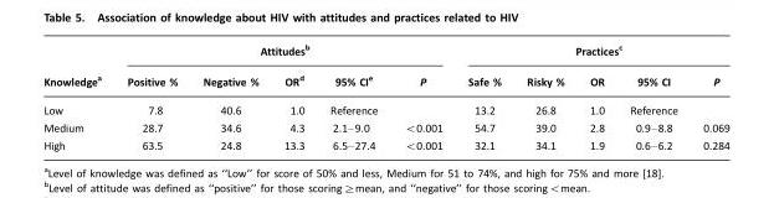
<table><thead><tr><td rowspan="2">Knowledge<sup>a</sup></td><td colspan="5">Attitudes<sup>b</sup></td><td colspan="5">Practices<sup>c</sup></td></tr><tr><td>Positive %</td><td>Negative %</td><td>OR<sup>d</sup></td><td>95% CI<sup>e</sup></td><td>P</td><td>Safe %</td><td>Risky %</td><td>OR</td><td>95% CI</td><td>P</td></tr></thead><tbody><tr><td>Low</td><td>7.8</td><td>40.6</td><td>1.0</td><td>Reference</td><td></td><td>13.2</td><td>26.8</td><td>1.0</td><td>Reference</td><td></td></tr><tr><td>Medium</td><td>28.7</td><td>34.6</td><td>4.3</td><td>2.1–9.0</td><td>&lt;0.001</td><td>54.7</td><td>39.0</td><td>2.8</td><td>0.9–8.8</td><td>0.069</td></tr><tr><td>High</td><td>63.5</td><td>24.8</td><td>13.3</td><td>6.5–27.4</td><td>&lt;0.001</td><td>32.1</td><td>34.1</td><td>1.9</td><td>0.6–6.2</td><td>0.284</td></tr></tbody></table>